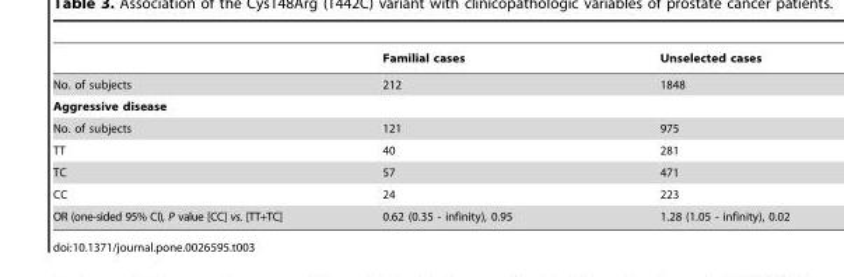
<table><thead><tr><td></td><td>Familial cases</td><td>Unselected cases</td></tr></thead><tbody><tr><td>No. of subjects</td><td>212</td><td>1848</td></tr><tr><td colspan="3">Aggressive disease</td></tr><tr><td>No. of subjects</td><td>121</td><td>975</td></tr><tr><td>TT</td><td>40</td><td>281</td></tr><tr><td>TC</td><td>57</td><td>471</td></tr><tr><td>CC</td><td>24</td><td>223</td></tr><tr><td>OR (one-sided 95% CI), P value [CC] vs. [TT+TC]</td><td>0.62 (0.35 - infinity), 0.95</td><td>1.28 (1.05 - infinity), 0.02</td></tr></tbody></table>